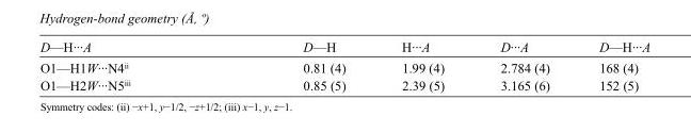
<table><tbody><tr><td>D—H···A</td><td>D—H</td><td>H···A</td><td>D···A</td><td>D—H···A</td></tr><tr><td>O1—H1W···N4<sup>ii</sup></td><td>0.81 (4)</td><td>1.99 (4)</td><td>2.784 (4)</td><td>168 (4)</td></tr><tr><td>O1—H2W···N5<sup>iii</sup></td><td>0.85 (5)</td><td>2.39 (5)</td><td>3.165 (6)</td><td>152 (5)</td></tr></tbody></table>